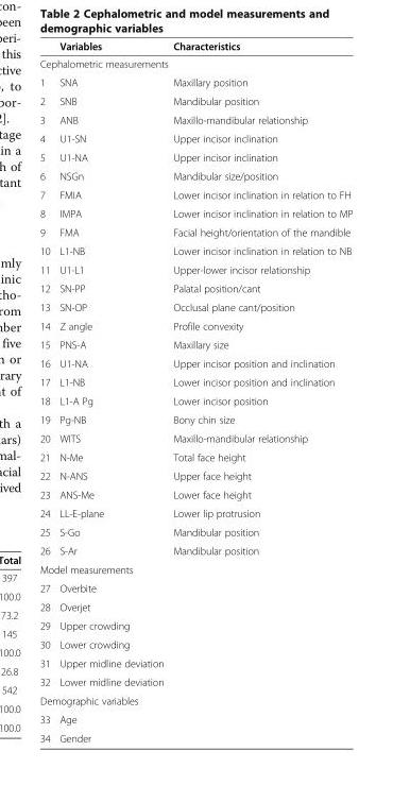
<table><thead><tr><td></td><td>Variables</td><td>Characteristics</td></tr></thead><tbody><tr><td colspan="3">Cephalometric measurements</td></tr><tr><td>1</td><td>SNA</td><td>Maxillary position</td></tr><tr><td>2</td><td>SNB</td><td>Mandibular position</td></tr><tr><td>3</td><td>ANB</td><td>Maxillo-mandibular relationship</td></tr><tr><td>4</td><td>U1-SN</td><td>Upper incisor inclination</td></tr><tr><td>5</td><td>U1-NA</td><td>Upper incisor inclination</td></tr><tr><td>6</td><td>NSGn</td><td>Mandibular size/position</td></tr><tr><td>7</td><td>FMIA</td><td>Lower incisor inclination in relation to FH</td></tr><tr><td>8</td><td>IMPA</td><td>Lower incisor inclination in relation to MP</td></tr><tr><td>9</td><td>FMA</td><td>Facial height/orientation of the mandible</td></tr><tr><td>10</td><td>L1-NB</td><td>Lower incisor inclination in relation to NB</td></tr><tr><td>11</td><td>U1-L1</td><td>Upper-lower incisor relationship</td></tr><tr><td>12</td><td>SN-PP</td><td>Palatal position/cant</td></tr><tr><td>13</td><td>SN-OP</td><td>Occlusal plane cant/position</td></tr><tr><td>14</td><td>Z angle</td><td>Profile convexity</td></tr><tr><td>15</td><td>PNS-A</td><td>Maxillary size</td></tr><tr><td>16</td><td>U1-NA</td><td>Upper incisor position and inclination</td></tr><tr><td>17</td><td>L1-NB</td><td>Lower incisor position and inclination</td></tr><tr><td>18</td><td>L1-A Pg</td><td>Lower incisor position</td></tr><tr><td>19</td><td>Pg-NB</td><td>Bony chin size</td></tr><tr><td>20</td><td>WITS</td><td>Maxillo-mandibular relationship</td></tr><tr><td>21</td><td>N-Me</td><td>Total face height</td></tr><tr><td>22</td><td>N-ANS</td><td>Upper face height</td></tr><tr><td>23</td><td>ANS-Me</td><td>Lower face height</td></tr><tr><td>24</td><td>LL-E-plane</td><td>Lower lip protrusion</td></tr><tr><td>25</td><td>S-Go</td><td>Mandibular position</td></tr><tr><td>26</td><td>S-Ar</td><td>Mandibular position</td></tr><tr><td colspan="3">Model measurements</td></tr><tr><td>27</td><td>Overbite</td><td></td></tr><tr><td>28</td><td>Overjet</td><td></td></tr><tr><td>29</td><td>Upper crowding</td><td></td></tr><tr><td>30</td><td>Lower crowding</td><td></td></tr><tr><td>31</td><td>Upper midline deviation</td><td></td></tr><tr><td>32</td><td>Lower midline deviation</td><td></td></tr><tr><td colspan="3">Demographic variables</td></tr><tr><td>33</td><td>Age</td><td></td></tr><tr><td>34</td><td>Gender</td><td></td></tr></tbody></table>